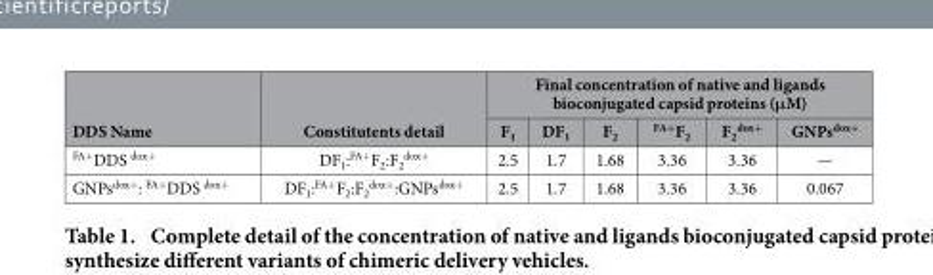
<table><thead><tr><td rowspan="2">DDS Name</td><td rowspan="2">Constitutents detail</td><td colspan="6">Final concentration of native and ligands bioconjugated capsid proteins (μM)</td></tr><tr><td>F<sub>1</sub></td><td>DF<sub>1</sub></td><td>F<sub>2</sub></td><td><sup>FA+</sup>F<sub>2</sub></td><td>F<sub>2</sub> <sup>dox+</sup></td><td>GNPs<sup>dox+</sup></td></tr></thead><tbody><tr><td><sup>FA+</sup>DDS <sup>dox+</sup></td><td>DF<sub>1</sub>:<sup>FA+</sup>F<sub>2</sub>:F<sub>2</sub> <sup>dox+</sup></td><td>2.5</td><td>1.7</td><td>1.68</td><td>3.36</td><td>3.36</td><td>—</td></tr><tr><td>GNPs<sup>dox+</sup>: <sup>FA+</sup>DDS <sup>dox+</sup></td><td>DF<sub>1</sub>:<sup>FA+</sup>F<sub>2</sub>:F<sub>2</sub> <sup>dox+</sup>:GNPs<sup>dox+</sup></td><td>2.5</td><td>1.7</td><td>1.68</td><td>3.36</td><td>3.36</td><td>0.067</td></tr></tbody></table>